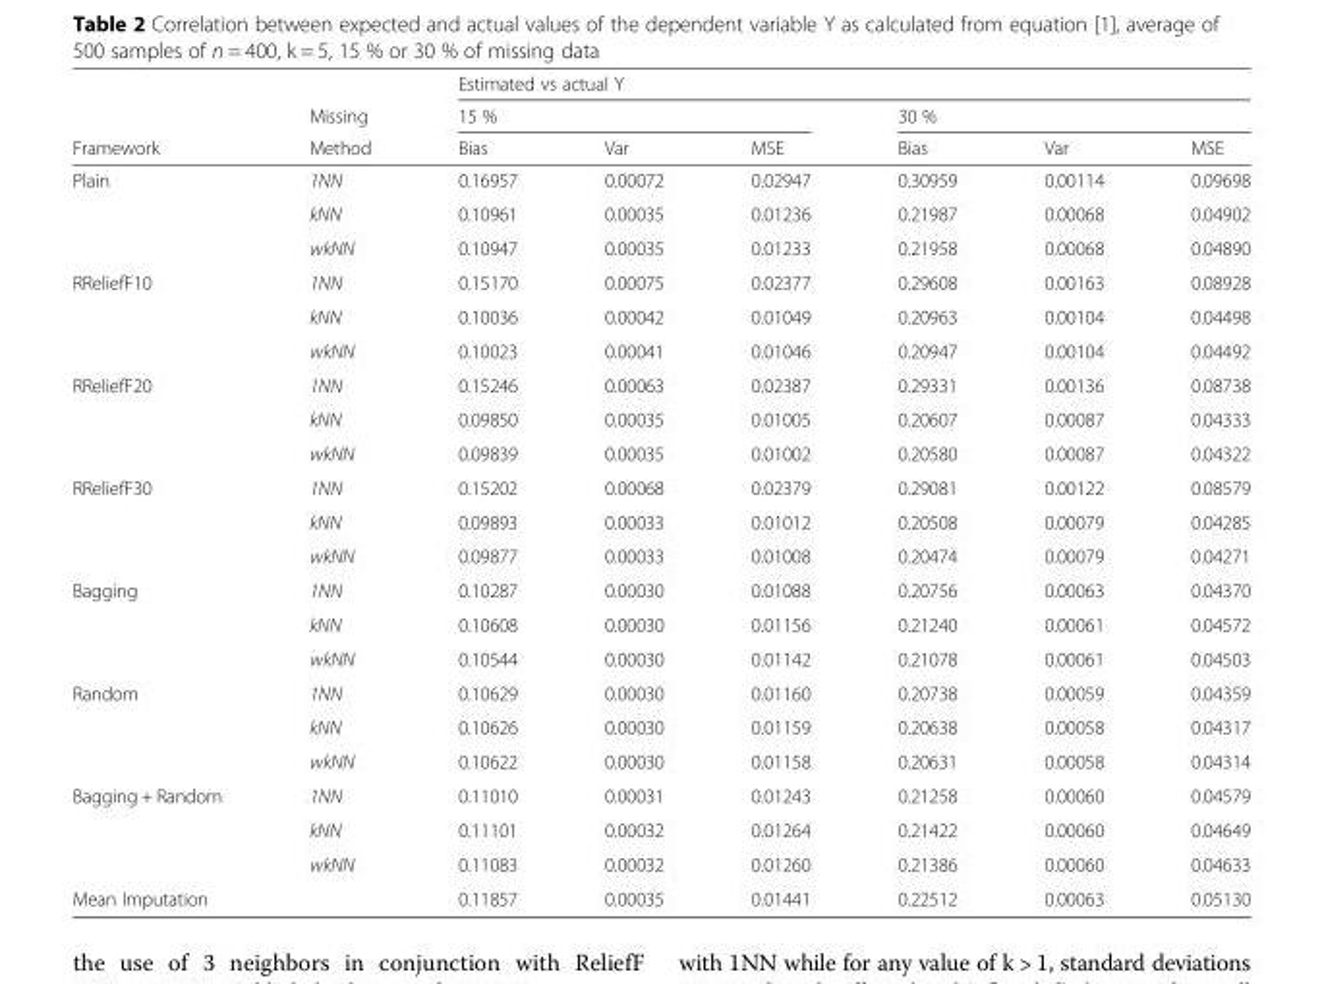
<table><thead><tr><td rowspan="3">Framework</td><td rowspan="3">Missing Method</td><td colspan="6">Estimated vs actual Y</td></tr><tr><td colspan="3">15 %</td><td colspan="3">30 %</td></tr><tr><td>Bias</td><td>Var</td><td>MSE</td><td>Bias</td><td>Var</td><td>MSE</td></tr></thead><tbody><tr><td rowspan="3">Plain</td><td>1NN</td><td>0.16957</td><td>0.00072</td><td>0.02947</td><td>0.30959</td><td>0.00114</td><td>0.09698</td></tr><tr><td>kNN</td><td>0.10961</td><td>0.00035</td><td>0.01236</td><td>0.21987</td><td>0.00068</td><td>0.04902</td></tr><tr><td>wkNN</td><td>0.10947</td><td>0.00035</td><td>0.01233</td><td>0.21958</td><td>0.00068</td><td>0.04890</td></tr><tr><td rowspan="3">RReliefF10</td><td>1NN</td><td>0.15170</td><td>0.00075</td><td>0.02377</td><td>0.29608</td><td>0.00163</td><td>0.08928</td></tr><tr><td>kNN</td><td>0.10036</td><td>0.00042</td><td>0.01049</td><td>0.20963</td><td>0.00104</td><td>0.04498</td></tr><tr><td>wkNN</td><td>0.10023</td><td>0.00041</td><td>0.01046</td><td>0.20947</td><td>0.00104</td><td>0.04492</td></tr><tr><td rowspan="3">RReliefF20</td><td>1NN</td><td>0.15246</td><td>0.00063</td><td>0.02387</td><td>0.29331</td><td>0.00136</td><td>0.08738</td></tr><tr><td>kNN</td><td>0.09850</td><td>0.00035</td><td>0.01005</td><td>0.20607</td><td>0.00087</td><td>0.04333</td></tr><tr><td>wkNN</td><td>0.09839</td><td>0.00035</td><td>0.01002</td><td>0.20580</td><td>0.00087</td><td>0.04322</td></tr><tr><td rowspan="3">RReliefF30</td><td>1NN</td><td>0.15202</td><td>0.00068</td><td>0.02379</td><td>0.29081</td><td>0.00122</td><td>0.08579</td></tr><tr><td>kNN</td><td>0.09893</td><td>0.00033</td><td>0.01012</td><td>0.20508</td><td>0.00079</td><td>0.04285</td></tr><tr><td>wkNN</td><td>0.09877</td><td>0.00033</td><td>0.01008</td><td>0.20474</td><td>0.00079</td><td>0.04271</td></tr><tr><td rowspan="3">Bagging</td><td>1NN</td><td>0.10287</td><td>0.00030</td><td>0.01088</td><td>0.20756</td><td>0.00063</td><td>0.04370</td></tr><tr><td>kNN</td><td>0.10608</td><td>0.00030</td><td>0.01156</td><td>0.21240</td><td>0.00061</td><td>0.04572</td></tr><tr><td>wkNN</td><td>0.10544</td><td>0.00030</td><td>0.01142</td><td>0.21078</td><td>0.00061</td><td>0.04503</td></tr><tr><td rowspan="3">Random</td><td>1NN</td><td>0.10629</td><td>0.00030</td><td>0.01160</td><td>0.20738</td><td>0.00059</td><td>0.04359</td></tr><tr><td>kNN</td><td>0.10626</td><td>0.00030</td><td>0.01159</td><td>0.20638</td><td>0.00058</td><td>0.04317</td></tr><tr><td>wkNN</td><td>0.10622</td><td>0.00030</td><td>0.01158</td><td>0.20631</td><td>0.00058</td><td>0.04314</td></tr><tr><td rowspan="3">Bagging + Random</td><td>1NN</td><td>0.11010</td><td>0.00031</td><td>0.01243</td><td>0.21258</td><td>0.00060</td><td>0.04579</td></tr><tr><td>kNN</td><td>0.11101</td><td>0.00032</td><td>0.01264</td><td>0.21422</td><td>0.00060</td><td>0.04649</td></tr><tr><td>wkNN</td><td>0.11083</td><td>0.00032</td><td>0.01260</td><td>0.21386</td><td>0.00060</td><td>0.04633</td></tr><tr><td>Mean Imputation</td><td></td><td>0.11857</td><td>0.00035</td><td>0.01441</td><td>0.22512</td><td>0.00063</td><td>0.05130</td></tr></tbody></table>